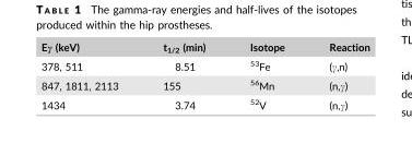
<table><thead><tr><td>Eγ (keV)</td><td>t<sub>1/2</sub> (min)</td><td>Isotope</td><td>Reaction</td></tr></thead><tbody><tr><td>378, 511</td><td>8.51</td><td><sup>53</sup>Fe</td><td>(γ,n)</td></tr><tr><td>847, 1811, 2113</td><td>155</td><td><sup>56</sup>Mn</td><td>(n,γ)</td></tr><tr><td>1434</td><td>3.74</td><td><sup>52</sup>V</td><td>(n,γ)</td></tr></tbody></table>